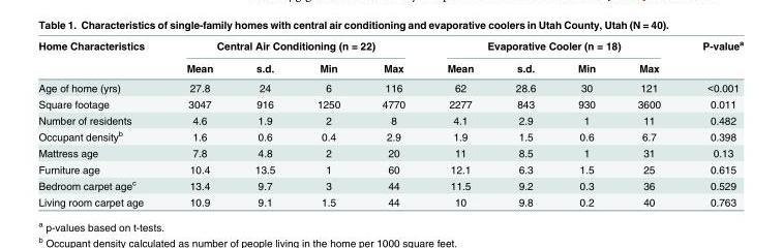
<table><thead><tr><td rowspan="2">Home Characteristics</td><td colspan="4">Central Air Conditioning (n = 22)</td><td colspan="4">Evaporative Cooler (n = 18)</td><td rowspan="2">P-value<sup>a</sup></td></tr><tr><td>Mean</td><td>s.d.</td><td>Min</td><td>Max</td><td>Mean</td><td>s.d.</td><td>Min</td><td>Max</td></tr></thead><tbody><tr><td>Age of home (yrs)</td><td>27.8</td><td>24</td><td>6</td><td>116</td><td>62</td><td>28.6</td><td>30</td><td>121</td><td>&lt;0.001</td></tr><tr><td>Square footage</td><td>3047</td><td>916</td><td>1250</td><td>4770</td><td>2277</td><td>843</td><td>930</td><td>3600</td><td>0.011</td></tr><tr><td>Number of residents</td><td>4.6</td><td>1.9</td><td>2</td><td>8</td><td>4.1</td><td>2.9</td><td>1</td><td>11</td><td>0.482</td></tr><tr><td>Occupant density<sup>b</sup></td><td>1.6</td><td>0.6</td><td>0.4</td><td>2.9</td><td>1.9</td><td>1.5</td><td>0.6</td><td>6.7</td><td>0.398</td></tr><tr><td>Mattress age</td><td>7.8</td><td>4.8</td><td>2</td><td>20</td><td>11</td><td>8.5</td><td>1</td><td>31</td><td>0.13</td></tr><tr><td>Furniture age</td><td>10.4</td><td>13.5</td><td>1</td><td>60</td><td>12.1</td><td>6.3</td><td>1.5</td><td>25</td><td>0.615</td></tr><tr><td>Bedroom carpet age<sup>c</sup></td><td>13.4</td><td>9.7</td><td>3</td><td>44</td><td>11.5</td><td>9.2</td><td>0.3</td><td>36</td><td>0.529</td></tr><tr><td>Living room carpet age</td><td>10.9</td><td>9.1</td><td>1.5</td><td>44</td><td>10</td><td>9.8</td><td>0.2</td><td>40</td><td>0.763</td></tr></tbody></table>